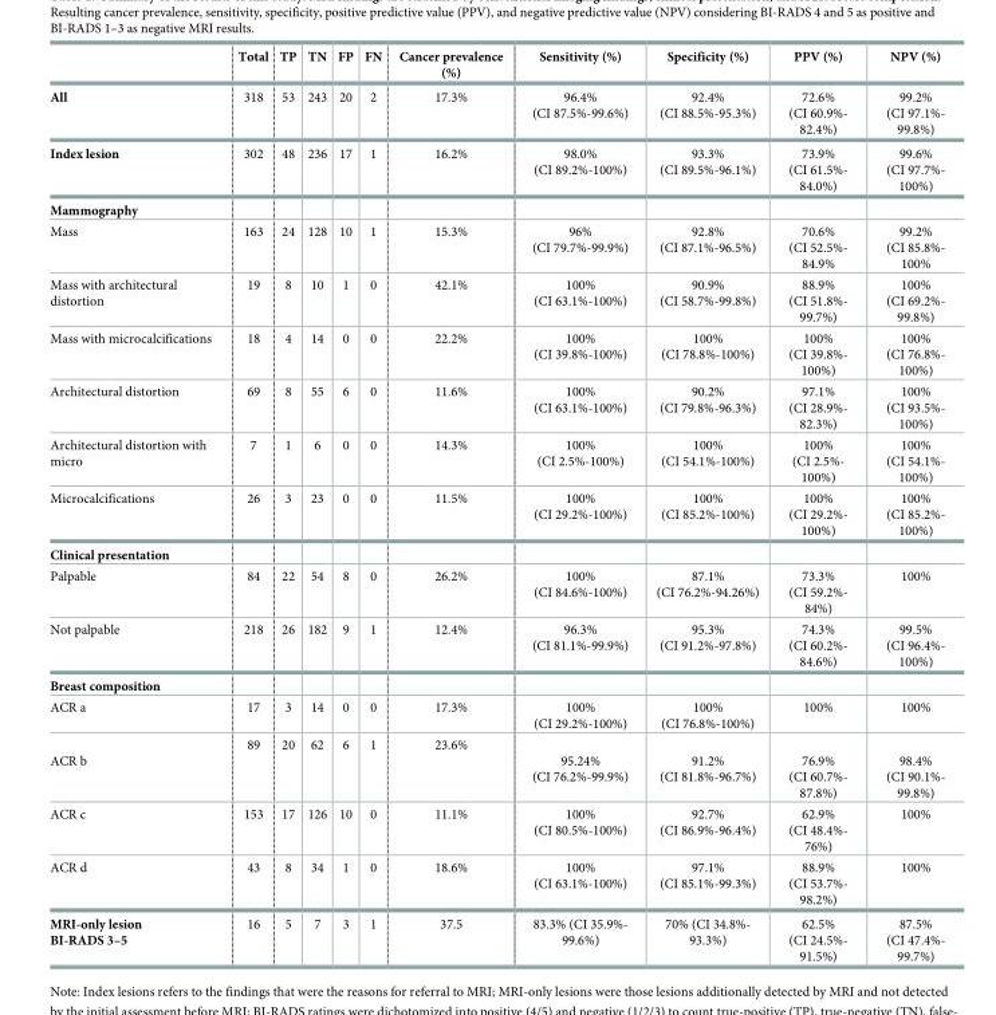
<table><thead><tr><td></td><td>Total</td><td>TP</td><td>TN</td><td>FP</td><td>FN</td><td>Cancer prevalence (%)</td><td>Sensitivity (%)</td><td>Specificity (%)</td><td>PPV (%)</td><td>NPV (%)</td></tr></thead><tbody><tr><td>All</td><td>318</td><td>53</td><td>243</td><td>20</td><td>2</td><td>17.3%</td><td>96.4% (CI 87.5%-99.6%)</td><td>92.4% (CI 88.5%-95.3%)</td><td>72.6% (CI 60.9%- 82.4%)</td><td>99.2% (CI 97.1%- 99.8%)</td></tr><tr><td>Index lesion</td><td>302</td><td>48</td><td>236</td><td>17</td><td>1</td><td>16.2%</td><td>98.0% (CI 89.2%-100%)</td><td>93.3% (CI 89.5%-96.1%)</td><td>73.9% (CI 61.5%- 84.0%)</td><td>99.6% (CI 97.7%- 100%)</td></tr><tr><td colspan="11">Mammography</td></tr><tr><td>Mass</td><td>163</td><td>24</td><td>128</td><td>10</td><td>1</td><td>15.3%</td><td>96% (CI 79.7%-99.9%)</td><td>92.8% (CI 87.1%-96.5%)</td><td>70.6% (CI 52.5%- 84.9%</td><td>99.2% (CI 85.8%- 100%</td></tr><tr><td>Mass with architectural distortion</td><td>19</td><td>8</td><td>10</td><td>1</td><td>0</td><td>42.1%</td><td>100% (CI 63.1%-100%)</td><td>90.9% (CI 58.7%-99.8%)</td><td>88.9% (CI 51.8%- 99.7%)</td><td>100% (CI 69.2%- 99.8%)</td></tr><tr><td>Mass with microcalcifications</td><td>18</td><td>4</td><td>14</td><td>0</td><td>0</td><td>22.2%</td><td>100% (CI 39.8%-100%)</td><td>100% (CI 78.8%-100%)</td><td>100% (CI 39.8%- 100%)</td><td>100% (CI 76.8%- 100%)</td></tr><tr><td>Architectural distortion</td><td>69</td><td>8</td><td>55</td><td>6</td><td>0</td><td>11.6%</td><td>100% (CI 63.1%-100%)</td><td>90.2% (CI 79.8%-96.3%)</td><td>97.1% (CI 28.9%- 82.3%)</td><td>100% (CI 93.5%- 100%)</td></tr><tr><td>Architectural distortion with micro</td><td>7</td><td>1</td><td>6</td><td>0</td><td>0</td><td>14.3%</td><td>100% (CI 2.5%-100%)</td><td>100% (CI 54.1%-100%)</td><td>100% (CI 2.5%- 100%)</td><td>100% (CI 54.1%- 100%)</td></tr><tr><td>Microcalcifications</td><td>26</td><td>3</td><td>23</td><td>0</td><td>0</td><td>11.5%</td><td>100% (CI 29.2%-100%)</td><td>100% (CI 85.2%-100%)</td><td>100% (CI 29.2%- 100%)</td><td>100% (CI 85.2%- 100%)</td></tr><tr><td colspan="11">Clinical presentation</td></tr><tr><td>Palpable</td><td>84</td><td>22</td><td>54</td><td>8</td><td>0</td><td>26.2%</td><td>100% (CI 84.6%-100%)</td><td>87.1% (CI 76.2%-94.26%)</td><td>73.3% (CI 59.2%- 84%)</td><td>100%</td></tr><tr><td>Not palpable</td><td>218</td><td>26</td><td>182</td><td>9</td><td>1</td><td>12.4%</td><td>96.3% (CI 81.1%-99.9%)</td><td>95.3% (CI 91.2%-97.8%)</td><td>74.3% (CI 60.2%- 84.6%)</td><td>99.5% (CI 96.4%- 100%)</td></tr><tr><td colspan="11">Breast composition</td></tr><tr><td>ACR a</td><td>17</td><td>3</td><td>14</td><td>0</td><td>0</td><td>17.3%</td><td>100% (CI 29.2%-100%)</td><td>100% (CI 76.8%-100%)</td><td>100%</td><td>100%</td></tr><tr><td>ACR b</td><td>89</td><td>20</td><td>62</td><td>6</td><td>1</td><td>23.6%</td><td>95.24% (CI 76.2%-99.9%)</td><td>91.2% (CI 81.8%-96.7%)</td><td>76.9% (CI 60.7%- 87.8%)</td><td>98.4% (CI 90.1%- 99.8%)</td></tr><tr><td>ACR c</td><td>153</td><td>17</td><td>126</td><td>10</td><td>0</td><td>11.1%</td><td>100% (CI 80.5%-100%)</td><td>92.7% (CI 86.9%-96.4%)</td><td>62.9% (CI 48.4%- 76%)</td><td>100%</td></tr><tr><td>ACR d</td><td>43</td><td>8</td><td>34</td><td>1</td><td>0</td><td>18.6%</td><td>100% (CI 63.1%-100%)</td><td>97.1% (CI 85.1%-99.3%)</td><td>88.9% (CI 53.7%- 98.2%)</td><td>100%</td></tr><tr><td>MRI-only lesion BI-RADS 3–5</td><td>16</td><td>5</td><td>7</td><td>3</td><td>1</td><td>37.5</td><td>83.3% (CI 35.9%- 99.6%)</td><td>70% (CI 34.8%- 93.3%)</td><td>62.5% (CI 24.5%- 91.5%)</td><td>87.5% (CI 47.4%- 99.7%)</td></tr></tbody></table>